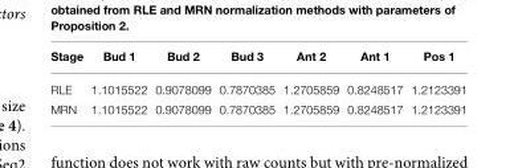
<table><thead><tr><td>Stage</td><td>Bud 1</td><td>Bud 2</td><td>Bud 3</td><td>Ant 2</td><td>Ant 1</td><td>Pos 1</td></tr></thead><tbody><tr><td>RLE</td><td>1.1015522</td><td>0.9078099</td><td>0.7870385</td><td>1.2705859</td><td>0.8248517</td><td>1.2123391</td></tr><tr><td>MRN</td><td>1.1015522</td><td>0.9078099</td><td>0.7870385</td><td>1.2705859</td><td>0.8248517</td><td>1.2123391</td></tr></tbody></table>